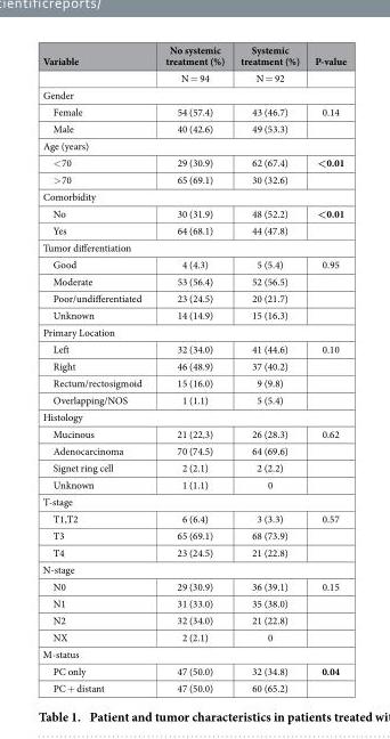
<table><thead><tr><td>Variable</td><td>No systemic treatment (%)</td><td>Systemic treatment (%)</td><td>P-value</td></tr></thead><tbody><tr><td></td><td>N = 94</td><td>N = 92</td><td></td></tr><tr><td colspan="4">Gender</td></tr><tr><td>Female</td><td>54 (57.4)</td><td>43 (46.7)</td><td>0.14</td></tr><tr><td>Male</td><td>40 (42.6)</td><td>49 (53.3)</td><td></td></tr><tr><td colspan="4">Age (years)</td></tr><tr><td>&lt; 70</td><td>29 (30.9)</td><td>62 (67.4)</td><td>&lt;0.01</td></tr><tr><td>&gt; 70</td><td>65 (69.1)</td><td>30 (32.6)</td><td></td></tr><tr><td colspan="4">Comorbidity</td></tr><tr><td>No</td><td>30 (31.9)</td><td>48 (52.2)</td><td>&lt;0.01</td></tr><tr><td>Yes</td><td>64 (68.1)</td><td>44 (47.8)</td><td></td></tr><tr><td colspan="4">Tumor differentiation</td></tr><tr><td>Good</td><td>4 (4.3)</td><td>5 (5.4)</td><td>0.95</td></tr><tr><td>Moderate</td><td>53 (56.4)</td><td>52 (56.5)</td><td></td></tr><tr><td>Poor/undifferentiated</td><td>23 (24.5)</td><td>20 (21.7)</td><td></td></tr><tr><td>Unknown</td><td>14 (14.9)</td><td>15 (16.3)</td><td></td></tr><tr><td colspan="4">Primary Location</td></tr><tr><td>Left</td><td>32 (34.0)</td><td>41 (44.6)</td><td>0.10</td></tr><tr><td>Right</td><td>46 (48.9)</td><td>37 (40.2)</td><td></td></tr><tr><td>Rectum/rectosigmoid</td><td>15 (16.0)</td><td>9 (9.8)</td><td></td></tr><tr><td>Overlapping/NOS</td><td>1 (1.1)</td><td>5 (5.4)</td><td></td></tr><tr><td colspan="4">Histology</td></tr><tr><td>Mucinous</td><td>21 (22,3)</td><td>26 (28.3)</td><td>0.62</td></tr><tr><td>Adenocarcinoma</td><td>70 (74.5)</td><td>64 (69.6)</td><td></td></tr><tr><td>Signet ring cell</td><td>2 (2.1)</td><td>2 (2.2)</td><td></td></tr><tr><td>Unknown</td><td>1 (1.1)</td><td>0</td><td></td></tr><tr><td colspan="4">T-stage</td></tr><tr><td>T1,T2</td><td>6 (6.4)</td><td>3 (3.3)</td><td>0.57</td></tr><tr><td>T3</td><td>65 (69.1)</td><td>68 (73.9)</td><td></td></tr><tr><td>T4</td><td>23 (24.5)</td><td>21 (22.8)</td><td></td></tr><tr><td colspan="4">N-stage</td></tr><tr><td>N0</td><td>29 (30.9)</td><td>36 (39.1)</td><td>0.15</td></tr><tr><td>N1</td><td>31 (33.0)</td><td>35 (38.0)</td><td></td></tr><tr><td>N2</td><td>32 (34.0)</td><td>21 (22.8)</td><td></td></tr><tr><td>NX</td><td>2 (2.1)</td><td>0</td><td></td></tr><tr><td colspan="4">M-status</td></tr><tr><td>PC only</td><td>47 (50.0)</td><td>32 (34.8)</td><td>0.04</td></tr><tr><td>PC + distant</td><td>47 (50.0)</td><td>60 (65.2)</td><td></td></tr></tbody></table>